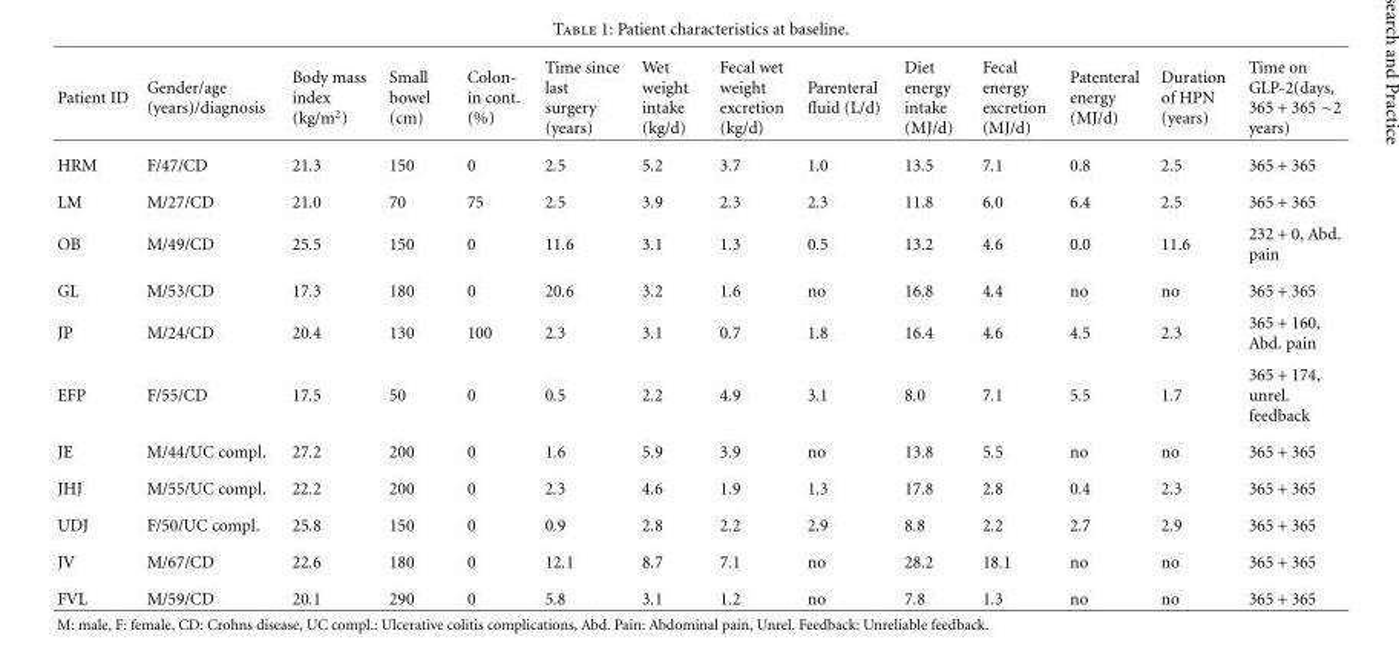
<table><thead><tr><td>Patient ID</td><td>Gender/age (years)/diagnosis</td><td>Body mass index (kg/m<sup>2</sup>)</td><td>Small bowel (cm)</td><td>Colon- in cont. (%)</td><td>Time since last surgery (years)</td><td>Wet weight intake (kg/d)</td><td>Fecal wet weight excretion (kg/d)</td><td>Parenteral fluid (L/d)</td><td>Diet energy intake (MJ/d)</td><td>Fecal energy excretion (MJ/d)</td><td>Patenteral energy (MJ/d)</td><td>Duration of HPN (years)</td><td>Time on GLP-2(days, 365 + 365 ∼2 years)</td></tr></thead><tbody><tr><td>HRM</td><td>F/47/CD</td><td>21.3</td><td>150</td><td>0</td><td>2.5</td><td>5.2</td><td>3.7</td><td>1.0</td><td>13.5</td><td>7.1</td><td>0.8</td><td>2.5</td><td>365 + 365</td></tr><tr><td>LM</td><td>M/27/CD</td><td>21.0</td><td>70</td><td>75</td><td>2.5</td><td>3.9</td><td>2.3</td><td>2.3</td><td>11.8</td><td>6.0</td><td>6.4</td><td>2.5</td><td>365 + 365</td></tr><tr><td>OB</td><td>M/49/CD</td><td>25.5</td><td>150</td><td>0</td><td>11.6</td><td>3.1</td><td>1.3</td><td>0.5</td><td>13.2</td><td>4.6</td><td>0.0</td><td>11.6</td><td>232 + 0, Abd. pain</td></tr><tr><td>GL</td><td>M/53/CD</td><td>17.3</td><td>180</td><td>0</td><td>20.6</td><td>3.2</td><td>1.6</td><td>no</td><td>16.8</td><td>4.4</td><td>no</td><td>no</td><td>365 + 365</td></tr><tr><td>JP</td><td>M/24/CD</td><td>20.4</td><td>130</td><td>100</td><td>2.3</td><td>3.1</td><td>0.7</td><td>1.8</td><td>16.4</td><td>4.6</td><td>4.5</td><td>2.3</td><td>365 + 160, Abd. pain</td></tr><tr><td>EFP</td><td>F/55/CD</td><td>17.5</td><td>50</td><td>0</td><td>0.5</td><td>2.2</td><td>4.9</td><td>3.1</td><td>8.0</td><td>7.1</td><td>5.5</td><td>1.7</td><td>365 + 174, unrel. feedback</td></tr><tr><td>JE</td><td>M/44/UC compl.</td><td>27.2</td><td>200</td><td>0</td><td>1.6</td><td>5.9</td><td>3.9</td><td>no</td><td>13.8</td><td>5.5</td><td>no</td><td>no</td><td>365 + 365</td></tr><tr><td>JHJ</td><td>M/55/UC compl.</td><td>22.2</td><td>200</td><td>0</td><td>2.3</td><td>4.6</td><td>1.9</td><td>1.3</td><td>17.8</td><td>2.8</td><td>0.4</td><td>2.3</td><td>365 + 365</td></tr><tr><td>UDJ</td><td>F/50/UC compl.</td><td>25.8</td><td>150</td><td>0</td><td>0.9</td><td>2.8</td><td>2.2</td><td>2.9</td><td>8.8</td><td>2.2</td><td>2.7</td><td>2.9</td><td>365 + 365</td></tr><tr><td>JV</td><td>M/67/CD</td><td>22.6</td><td>180</td><td>0</td><td>12.1</td><td>8.7</td><td>7.1</td><td>no</td><td>28.2</td><td>18.1</td><td>no</td><td>no</td><td>365 + 365</td></tr><tr><td>FVL</td><td>M/59/CD</td><td>20.1</td><td>290</td><td>0</td><td>5.8</td><td>3.1</td><td>1.2</td><td>no</td><td>7.8</td><td>1.3</td><td>no</td><td>no</td><td>365 + 365</td></tr></tbody></table>